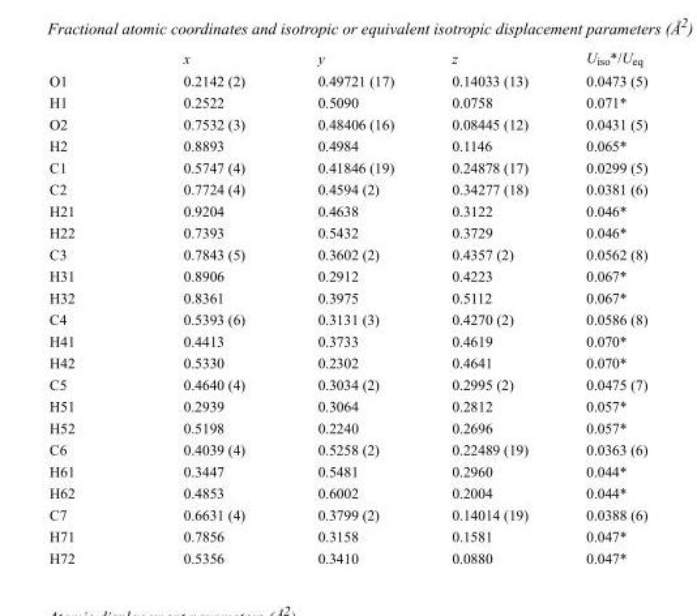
<table><thead><tr><td></td><td>x</td><td>y</td><td>z</td><td>U<sub>iso</sub>*/U<sub>eq</sub></td></tr></thead><tbody><tr><td>O1</td><td>0.2142 (2)</td><td>0.49721 (17)</td><td>0.14033 (13)</td><td>0.0473 (5)</td></tr><tr><td>H1</td><td>0.2522</td><td>0.5090</td><td>0.0758</td><td>0.071*</td></tr><tr><td>O2</td><td>0.7532 (3)</td><td>0.48406 (16)</td><td>0.08445 (12)</td><td>0.0431 (5)</td></tr><tr><td>H2</td><td>0.8893</td><td>0.4984</td><td>0.1146</td><td>0.065*</td></tr><tr><td>C1</td><td>0.5747 (4)</td><td>0.41846 (19)</td><td>0.24878 (17)</td><td>0.0299 (5)</td></tr><tr><td>C2</td><td>0.7724 (4)</td><td>0.4594 (2)</td><td>0.34277 (18)</td><td>0.0381 (6)</td></tr><tr><td>H21</td><td>0.9204</td><td>0.4638</td><td>0.3122</td><td>0.046*</td></tr><tr><td>H22</td><td>0.7393</td><td>0.5432</td><td>0.3729</td><td>0.046*</td></tr><tr><td>C3</td><td>0.7843 (5)</td><td>0.3602 (2)</td><td>0.4357 (2)</td><td>0.0562 (8)</td></tr><tr><td>H31</td><td>0.8906</td><td>0.2912</td><td>0.4223</td><td>0.067*</td></tr><tr><td>H32</td><td>0.8361</td><td>0.3975</td><td>0.5112</td><td>0.067*</td></tr><tr><td>C4</td><td>0.5393 (6)</td><td>0.3131 (3)</td><td>0.4270 (2)</td><td>0.0586 (8)</td></tr><tr><td>H41</td><td>0.4413</td><td>0.3733</td><td>0.4619</td><td>0.070*</td></tr><tr><td>H42</td><td>0.5330</td><td>0.2302</td><td>0.4641</td><td>0.070*</td></tr><tr><td>C5</td><td>0.4640 (4)</td><td>0.3034 (2)</td><td>0.2995 (2)</td><td>0.0475 (7)</td></tr><tr><td>H51</td><td>0.2939</td><td>0.3064</td><td>0.2812</td><td>0.057*</td></tr><tr><td>H52</td><td>0.5198</td><td>0.2240</td><td>0.2696</td><td>0.057*</td></tr><tr><td>C6</td><td>0.4039 (4)</td><td>0.5258 (2)</td><td>0.22489 (19)</td><td>0.0363 (6)</td></tr><tr><td>H61</td><td>0.3447</td><td>0.5481</td><td>0.2960</td><td>0.044*</td></tr><tr><td>H62</td><td>0.4853</td><td>0.6002</td><td>0.2004</td><td>0.044*</td></tr><tr><td>C7</td><td>0.6631 (4)</td><td>0.3799 (2)</td><td>0.14014 (19)</td><td>0.0388 (6)</td></tr><tr><td>H71</td><td>0.7856</td><td>0.3158</td><td>0.1581</td><td>0.047*</td></tr><tr><td>H72</td><td>0.5356</td><td>0.3410</td><td>0.0880</td><td>0.047*</td></tr></tbody></table>